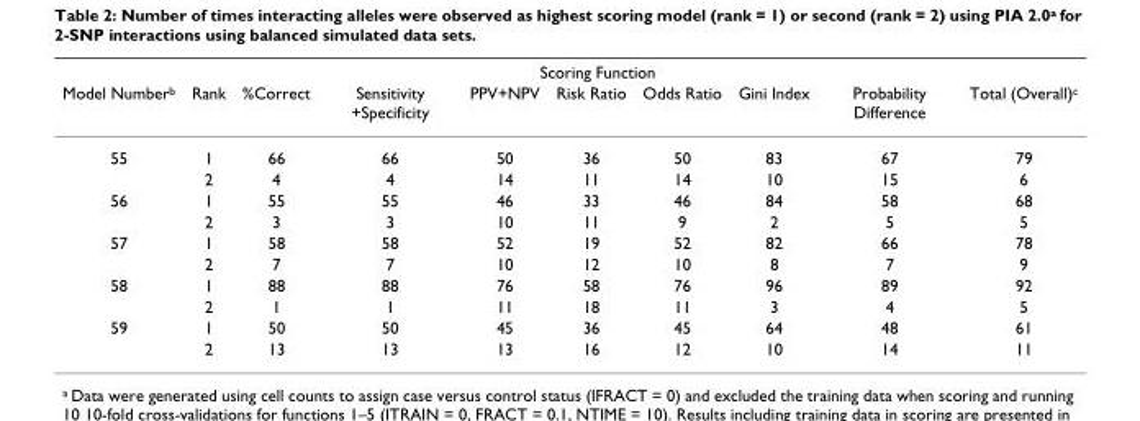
<table><thead><tr><td rowspan="2">Model Number<sup>b</sup></td><td rowspan="2">Rank</td><td colspan="7">Scoring Function</td><td rowspan="2">Total (Overall)<sup>c</sup></td></tr><tr><td>%Correct</td><td>Sensitivity +Specificity</td><td>PPV+NPV</td><td>Risk Ratio</td><td>Odds Ratio</td><td>Gini Index</td><td>Probability Difference</td></tr></thead><tbody><tr><td rowspan="2">55</td><td>1</td><td>66</td><td>66</td><td>50</td><td>36</td><td>50</td><td>83</td><td>67</td><td>79</td></tr><tr><td>2</td><td>4</td><td>4</td><td>14</td><td>11</td><td>14</td><td>10</td><td>15</td><td>6</td></tr><tr><td rowspan="2">56</td><td>1</td><td>55</td><td>55</td><td>46</td><td>33</td><td>46</td><td>84</td><td>58</td><td>68</td></tr><tr><td>2</td><td>3</td><td>3</td><td>10</td><td>11</td><td>9</td><td>2</td><td>5</td><td>5</td></tr><tr><td rowspan="2">57</td><td>1</td><td>58</td><td>58</td><td>52</td><td>19</td><td>52</td><td>82</td><td>66</td><td>78</td></tr><tr><td>2</td><td>7</td><td>7</td><td>10</td><td>12</td><td>10</td><td>8</td><td>7</td><td>9</td></tr><tr><td rowspan="2">58</td><td>1</td><td>88</td><td>88</td><td>76</td><td>58</td><td>76</td><td>96</td><td>89</td><td>92</td></tr><tr><td>2</td><td>1</td><td>1</td><td>11</td><td>18</td><td>11</td><td>3</td><td>4</td><td>5</td></tr><tr><td rowspan="2">59</td><td>1</td><td>50</td><td>50</td><td>45</td><td>36</td><td>45</td><td>64</td><td>48</td><td>61</td></tr><tr><td>2</td><td>13</td><td>13</td><td>13</td><td>16</td><td>12</td><td>10</td><td>14</td><td>11</td></tr></tbody></table>